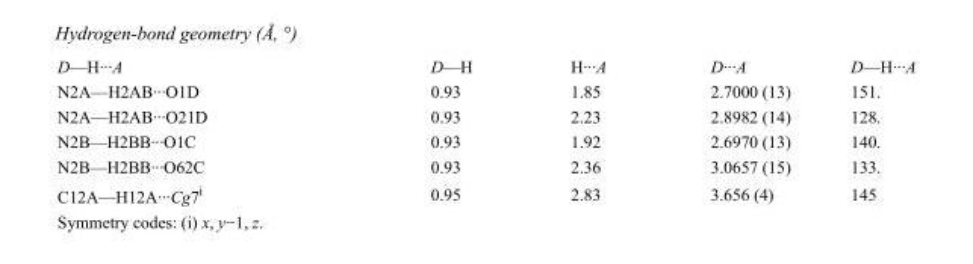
<table><tbody><tr><td>D—H···A</td><td>D—H</td><td>H···A</td><td>D···A</td><td>D—H···A</td></tr><tr><td>N2A—H2AB···O1D</td><td>0.93</td><td>1.85</td><td>2.7000 (13)</td><td>151.</td></tr><tr><td>N2A—H2AB···O21D</td><td>0.93</td><td>2.23</td><td>2.8982 (14)</td><td>128.</td></tr><tr><td>N2B—H2BB···O1C</td><td>0.93</td><td>1.92</td><td>2.6970 (13)</td><td>140.</td></tr><tr><td>N2B—H2BB···O62C</td><td>0.93</td><td>2.36</td><td>3.0657 (15)</td><td>133.</td></tr><tr><td>C12A—H12A···Cg7<sup>i</sup></td><td>0.95</td><td>2.83</td><td>3.656 (4)</td><td>145</td></tr></tbody></table>